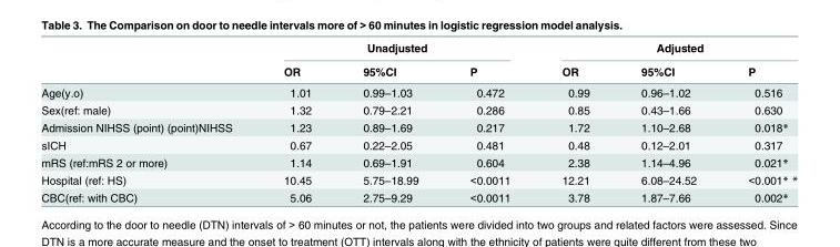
<table><thead><tr><td rowspan="2"></td><td colspan="3">Unadjusted</td><td colspan="3">Adjusted</td></tr><tr><td>OR</td><td>95%CI</td><td>P</td><td>OR</td><td>95%CI</td><td>P</td></tr></thead><tbody><tr><td>Age(y.o)</td><td>1.01</td><td>0.99–1.03</td><td>0.472</td><td>0.99</td><td>0.96–1.02</td><td>0.516</td></tr><tr><td>Sex(ref: male)</td><td>1.32</td><td>0.79–2.21</td><td>0.286</td><td>0.85</td><td>0.43–1.66</td><td>0.630</td></tr><tr><td>Admission NIHSS (point) (point)NIHSS</td><td>1.23</td><td>0.89–1.69</td><td>0.217</td><td>1.72</td><td>1.10–2.68</td><td>0.018*</td></tr><tr><td>sICH</td><td>0.67</td><td>0.22–2.05</td><td>0.481</td><td>0.48</td><td>0.12–2.01</td><td>0.317</td></tr><tr><td>mRS (ref:mRS 2 or more)</td><td>1.14</td><td>0.69–1.91</td><td>0.604</td><td>2.38</td><td>1.14–4.96</td><td>0.021*</td></tr><tr><td>Hospital (ref: HS)</td><td>10.45</td><td>5.75–18.99</td><td>&lt;0.0011</td><td>12.21</td><td>6.08–24.52</td><td>&lt;0.001* *</td></tr><tr><td>CBC(ref: with CBC)</td><td>5.06</td><td>2.75–9.29</td><td>&lt;0.0011</td><td>3.78</td><td>1.87–7.66</td><td>0.002*</td></tr></tbody></table>